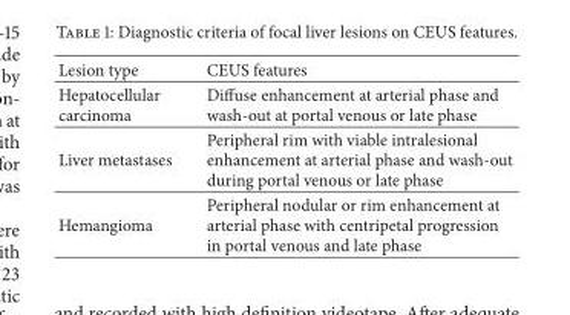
<table><thead><tr><td>Lesion type</td><td>CEUS features</td></tr></thead><tbody><tr><td>Hepatocellular carcinoma</td><td>Diffuse enhancement at arterial phase and wash-out at portal venous or late phase</td></tr><tr><td>Liver metastases</td><td>Peripheral rim with viable intralesional enhancement at arterial phase and wash-out during portal venous or late phase</td></tr><tr><td>Hemangioma</td><td>Peripheral nodular or rim enhancement at arterial phase with centripetal progression in portal venous and late phase</td></tr></tbody></table>